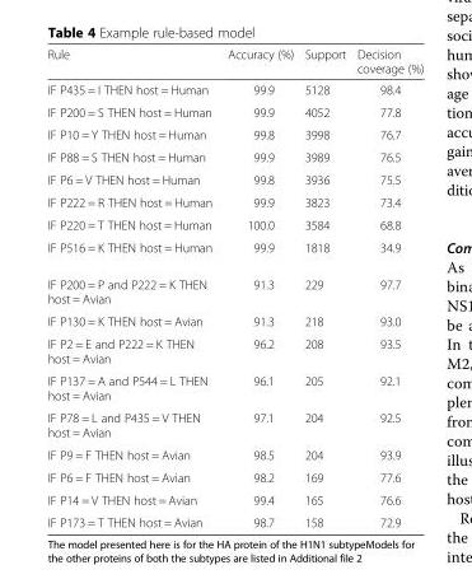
<table><thead><tr><td>Rule</td><td>Accuracy (%)</td><td>Support</td><td>Decision coverage (%)</td></tr></thead><tbody><tr><td>IF P435 = I THEN host = Human</td><td>99.9</td><td>5128</td><td>98.4</td></tr><tr><td>IF P200 = S THEN host = Human</td><td>99.9</td><td>4052</td><td>77.8</td></tr><tr><td>IF P10 = Y THEN host = Human</td><td>99.8</td><td>3998</td><td>76.7</td></tr><tr><td>IF P88 = S THEN host = Human</td><td>99.9</td><td>3989</td><td>76.5</td></tr><tr><td>IF P6 = V THEN host = Human</td><td>99.8</td><td>3936</td><td>75.5</td></tr><tr><td>IF P222 = R THEN host = Human</td><td>99.9</td><td>3823</td><td>73.4</td></tr><tr><td>IF P220 = T THEN host = Human</td><td>100.0</td><td>3584</td><td>68.8</td></tr><tr><td>IF P516 = K THEN host = Human</td><td>99.9</td><td>1818</td><td>34.9</td></tr><tr><td>IF P200 = P and P222 = K THEN host = Avian</td><td>91.3</td><td>229</td><td>97.7</td></tr><tr><td>IF P130 = K THEN host = Avian</td><td>91.3</td><td>218</td><td>93.0</td></tr><tr><td>IF P2 = E and P222 = K THEN host = Avian</td><td>96.2</td><td>208</td><td>93.5</td></tr><tr><td>IF P137 = A and P544 = L THEN host = Avian</td><td>96.1</td><td>205</td><td>92.1</td></tr><tr><td>IF P78 = L and P435 = V THEN host = Avian</td><td>97.1</td><td>204</td><td>92.5</td></tr><tr><td>IF P9 = F THEN host = Avian</td><td>98.5</td><td>204</td><td>93.9</td></tr><tr><td>IF P6 = F THEN host = Avian</td><td>98.2</td><td>169</td><td>77.6</td></tr><tr><td>IF P14 = V THEN host = Avian</td><td>99.4</td><td>165</td><td>76.6</td></tr><tr><td>IF P173 = T THEN host = Avian</td><td>98.7</td><td>158</td><td>72.9</td></tr></tbody></table>